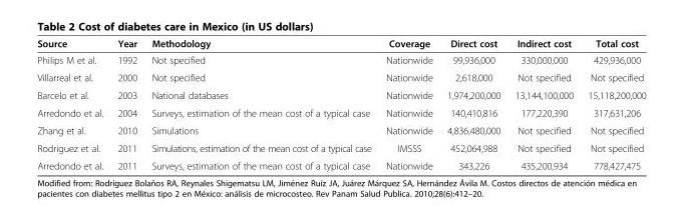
<table><thead><tr><td>Source</td><td>Year</td><td>Methodology</td><td>Coverage</td><td>Direct cost</td><td>Indirect cost</td><td>Total cost</td></tr></thead><tbody><tr><td>Philips M et al.</td><td>1992</td><td>Not specified</td><td>Nationwide</td><td>99,936,000</td><td>330,000,000</td><td>429,936,000</td></tr><tr><td>Villarreal et al.</td><td>2000</td><td>Not specified</td><td>Nationwide</td><td>2,618,000</td><td>Not specified</td><td>Not specified</td></tr><tr><td>Barcelo et al.</td><td>2003</td><td>National databases</td><td>Nationwide</td><td>1,974,200,000</td><td>13,144,100,000</td><td>15,118,200,000</td></tr><tr><td>Arredondo et al.</td><td>2004</td><td>Surveys, estimation of the mean cost of a typical case</td><td>Nationwide</td><td>140,410,816</td><td>177,220,390</td><td>317,631,206</td></tr><tr><td>Zhang et al.</td><td>2010</td><td>Simulations</td><td>Nationwide</td><td>4,836,480,000</td><td>Not specified</td><td>Not specified</td></tr><tr><td>Rodriguez et al.</td><td>2011</td><td>Simulations, estimation of the mean cost of a typical case</td><td>IMSSS</td><td>452,064,988</td><td>Not specified</td><td>Not specified</td></tr><tr><td>Arredondo et al.</td><td>2011</td><td>Surveys, estimation of the mean cost of a typical case</td><td>Nationwide</td><td>343,226</td><td>435,200,934</td><td>778,427,475</td></tr></tbody></table>